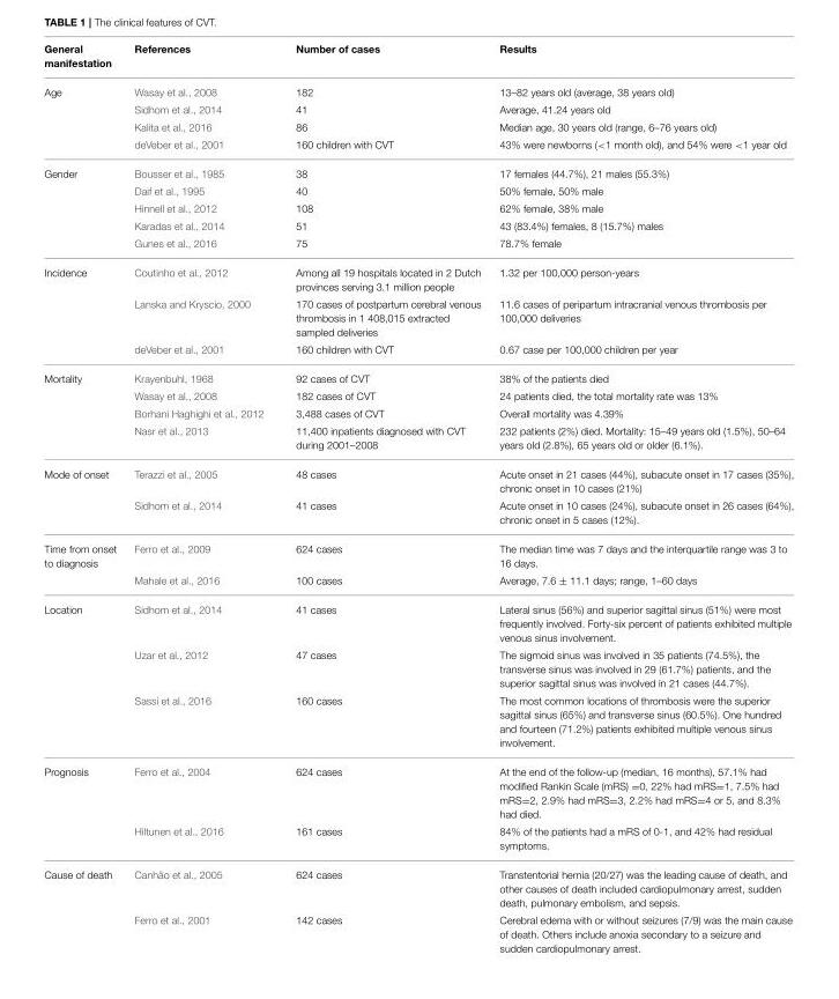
<table><thead><tr><td>General manifestation</td><td>References</td><td>Number of cases</td><td>Results</td></tr></thead><tbody><tr><td rowspan="4">Age</td><td>Wasay et al., 2008</td><td>182</td><td>13–82 years old (average, 38 years old)</td></tr><tr><td>Sidhom et al., 2014</td><td>41</td><td>Average, 41.24 years old</td></tr><tr><td>Kalita et al., 2016</td><td>86</td><td>Median age, 30 years old (range, 6–76 years old)</td></tr><tr><td>deVeber et al., 2001</td><td>160 children with CVT</td><td>43% were newborns (&lt;1 month old), and 54% were &lt;1 year old</td></tr><tr><td rowspan="5">Gender</td><td>Bousser et al., 1985</td><td>38</td><td>17 females (44.7%), 21 males (55.3%)</td></tr><tr><td>Daif et al., 1995</td><td>40</td><td>50% female, 50% male</td></tr><tr><td>Hinnell et al., 2012</td><td>108</td><td>62% female, 38% male</td></tr><tr><td>Karadas et al., 2014</td><td>51</td><td>43 (83.4%) females, 8 (15.7%) males</td></tr><tr><td>Gunes et al., 2016</td><td>75</td><td>78.7% female</td></tr><tr><td rowspan="3">Incidence</td><td>Coutinho et al., 2012</td><td>Among all 19 hospitals located in 2 Dutch provinces serving 3.1 million people</td><td>1.32 per 100,000 person-years</td></tr><tr><td>Lanska and Kryscio, 2000</td><td>170 cases of postpartum cerebral venous thrombosis in 1 408,015 extracted sampled deliveries</td><td>11.6 cases of peripartum intracranial venous thrombosis per 100,000 deliveries</td></tr><tr><td>deVeber et al., 2001</td><td>160 children with CVT</td><td>0.67 case per 100,000 children per year</td></tr><tr><td rowspan="4">Mortality</td><td>Krayenbuhl, 1968</td><td>92 cases of CVT</td><td>38% of the patients died</td></tr><tr><td>Wasay et al., 2008</td><td>182 cases of CVT</td><td>24 patients died, the total mortality rate was 13%</td></tr><tr><td>Borhani Haghighi et al., 2012</td><td>3,488 cases of CVT</td><td>Overall mortality was 4.39%</td></tr><tr><td>Nasr et al., 2013</td><td>11,400 inpatients diagnosed with CVT during 2001–2008</td><td>232 patients (2%) died. Mortality: 15–49 years old (1.5%), 50–64 years old (2.8%), 65 years old or older (6.1%).</td></tr><tr><td rowspan="2">Mode of onset</td><td>Terazzi et al., 2005</td><td>48 cases</td><td>Acute onset in 21 cases (44%), subacute onset in 17 cases (35%), chronic onset in 10 cases (21%)</td></tr><tr><td>Sidhom et al., 2014</td><td>41 cases</td><td>Acute onset in 10 cases (24%), subacute onset in 26 cases (64%), chronic onset in 5 cases (12%).</td></tr><tr><td rowspan="2">Time from onset to diagnosis</td><td>Ferro et al., 2009</td><td>624 cases</td><td>The median time was 7 days and the interquartile range was 3 to 16 days.</td></tr><tr><td>Mahale et al., 2016</td><td>100 cases</td><td>Average, 7.6 ± 11.1 days; range, 1–60 days</td></tr><tr><td rowspan="3">Location</td><td>Sidhom et al., 2014</td><td>41 cases</td><td>Lateral sinus (56%) and superior sagittal sinus (51%) were most frequently involved. Forty-six percent of patients exhibited multiple venous sinus involvement.</td></tr><tr><td>Uzar et al., 2012</td><td>47 cases</td><td>The sigmoid sinus was involved in 35 patients (74.5%), the transverse sinus was involved in 29 (61.7%) patients, and the superior sagittal sinus was involved in 21 cases (44.7%).</td></tr><tr><td>Sassi et al., 2016</td><td>160 cases</td><td>The most common locations of thrombosis were the superior sagittal sinus (65%) and transverse sinus (60.5%). One hundred and fourteen (71.2%) patients exhibited multiple venous sinus involvement.</td></tr><tr><td rowspan="2">Prognosis</td><td>Ferro et al., 2004</td><td>624 cases</td><td>At the end of the follow-up (median, 16 months), 57.1% had modified Rankin Scale (mRS) =0, 22% had mRS=1, 7.5% had mRS=2, 2.9% had mRS=3, 2.2% had mRS=4 or 5, and 8.3% had died.</td></tr><tr><td>Hiltunen et al., 2016</td><td>161 cases</td><td>84% of the patients had a mRS of 0-1, and 42% had residual symptoms.</td></tr><tr><td rowspan="2">Cause of death</td><td>Canhão et al., 2005</td><td>624 cases</td><td>Transtentorial hernia (20/27) was the leading cause of death, and other causes of death included cardiopulmonary arrest, sudden death, pulmonary embolism, and sepsis.</td></tr><tr><td>Ferro et al., 2001</td><td>142 cases</td><td>Cerebral edema with or without seizures (7/9) was the main cause of death. Others include anoxia secondary to a seizure and sudden cardiopulmonary arrest.</td></tr></tbody></table>